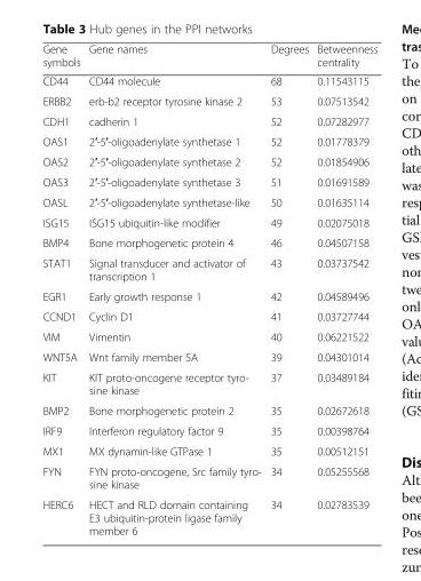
<table><thead><tr><td>Gene symbols</td><td>Gene names</td><td>Degrees</td><td>Betweenness centrality</td></tr></thead><tbody><tr><td>CD44</td><td>CD44 molecule</td><td>68</td><td>0.11543115</td></tr><tr><td>ERBB2</td><td>erb-b2 receptor tyrosine kinase 2</td><td>53</td><td>0.07513542</td></tr><tr><td>CDH1</td><td>cadherin 1</td><td>52</td><td>0.07282977</td></tr><tr><td>OAS1</td><td>2′-5′-oligoadenylate synthetase 1</td><td>52</td><td>0.01778379</td></tr><tr><td>OAS2</td><td>2′-5′-oligoadenylate synthetase 2</td><td>52</td><td>0.01854906</td></tr><tr><td>OAS3</td><td>2′-5′-oligoadenylate synthetase 3</td><td>51</td><td>0.01691589</td></tr><tr><td>OASL</td><td>2′-5′-oligoadenylate synthetase-like</td><td>50</td><td>0.01635114</td></tr><tr><td>ISG15</td><td>ISG15 ubiquitin-like modifier</td><td>49</td><td>0.02075018</td></tr><tr><td>BMP4</td><td>Bone morphogenetic protein 4</td><td>46</td><td>0.04507158</td></tr><tr><td>STAT1</td><td>Signal transducer and activator of transcription 1</td><td>43</td><td>0.03737542</td></tr><tr><td>EGR1</td><td>Early growth response 1</td><td>42</td><td>0.04589496</td></tr><tr><td>CCND1</td><td>Cyclin D1</td><td>41</td><td>0.03727744</td></tr><tr><td>VIM</td><td>Vimentin</td><td>40</td><td>0.06221522</td></tr><tr><td>WNT5A</td><td>Wnt family member 5A</td><td>39</td><td>0.04301014</td></tr><tr><td>KIT</td><td>KIT proto-oncogene receptor tyro- sine kinase</td><td>37</td><td>0.03489184</td></tr><tr><td>BMP2</td><td>Bone morphogenetic protein 2</td><td>35</td><td>0.02672618</td></tr><tr><td>IRF9</td><td>Interferon regulatory factor 9</td><td>35</td><td>0.00398764</td></tr><tr><td>MX1</td><td>MX dynamin-like GTPase 1</td><td>35</td><td>0.00512151</td></tr><tr><td>FYN</td><td>FYN proto-oncogene, Src family tyro- sine kinase</td><td>34</td><td>0.05255568</td></tr><tr><td>HERC6</td><td>HECT and RLD domain containing E3 ubiquitin-protein ligase family member 6</td><td>34</td><td>0.02783539</td></tr></tbody></table>